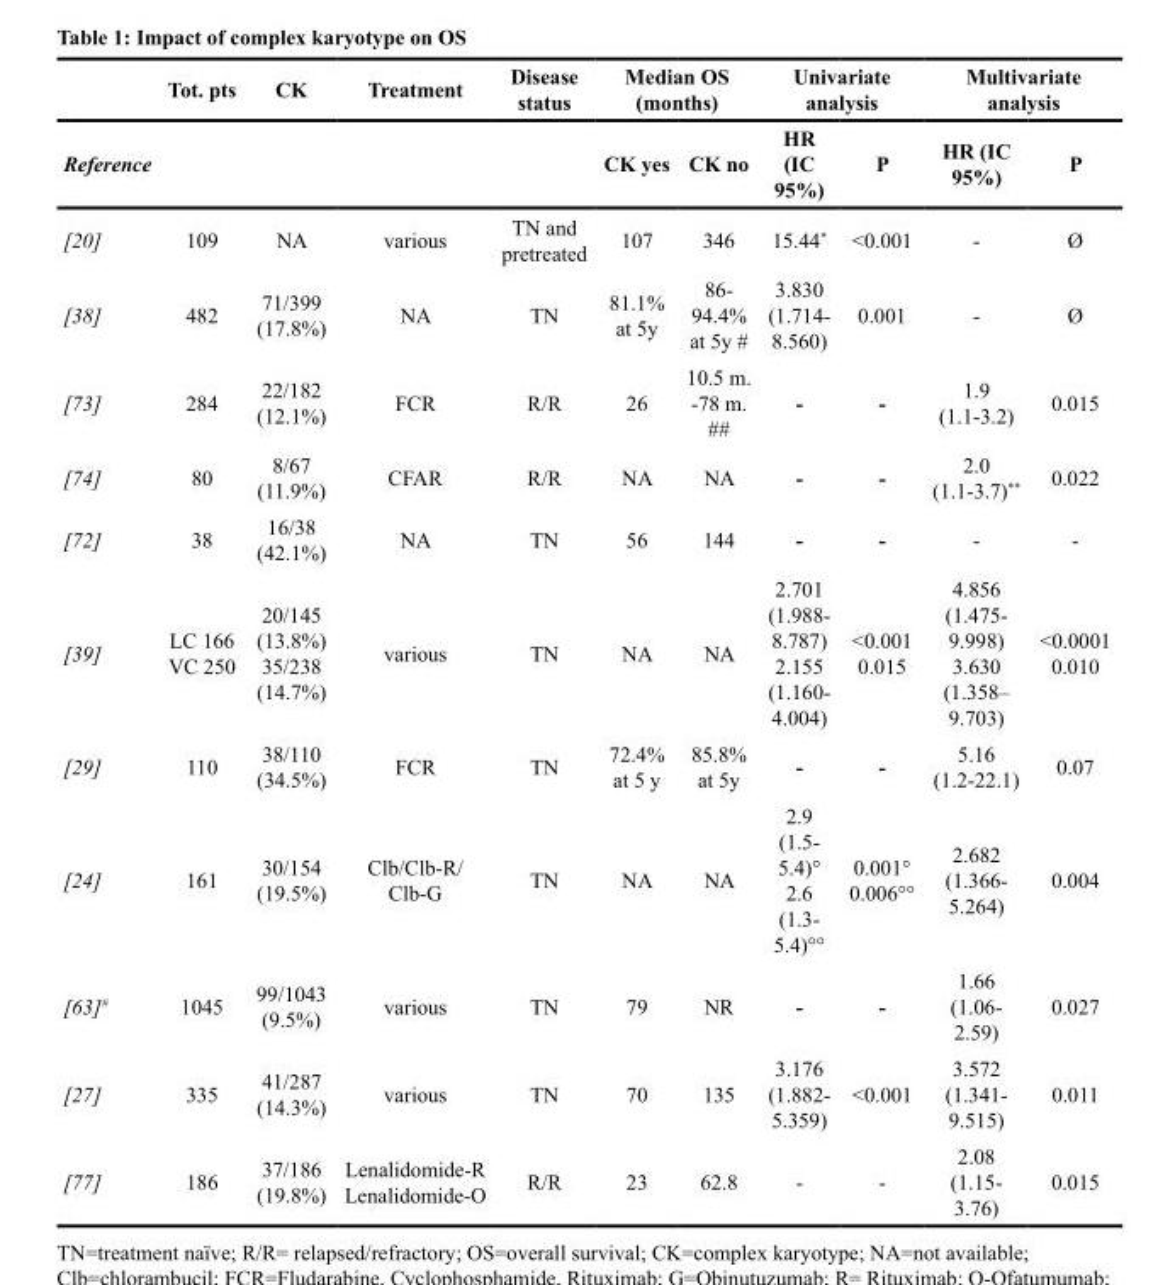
<table><thead><tr><td rowspan="2">Reference</td><td rowspan="2">Tot. pts</td><td rowspan="2">CK</td><td rowspan="2">Treatment</td><td rowspan="2">Disease status</td><td colspan="2">Median OS (months)</td><td colspan="2">Univariate analysis</td><td colspan="2">Multivariate analysis</td></tr><tr><td>CK yes</td><td>CK no</td><td>HR (IC 95%)</td><td>P</td><td>HR (IC 95%)</td><td>P</td></tr></thead><tbody><tr><td>[20]</td><td>109</td><td>NA</td><td>various</td><td>TN and pretreated</td><td>107</td><td>346</td><td>15.44*</td><td>&lt;0.001</td><td>-</td><td>Ø</td></tr><tr><td>[38]</td><td>482</td><td>71/399 (17.8%)</td><td>NA</td><td>TN</td><td>81.1% at 5y</td><td>86- 94.4% at 5y #</td><td>3.830 (1.714- 8.560)</td><td>0.001</td><td>-</td><td>Ø</td></tr><tr><td>[73]</td><td>284</td><td>22/182 (12.1%)</td><td>FCR</td><td>R/R</td><td>26</td><td>10.5 m. -78 m. ##</td><td>-</td><td>-</td><td>1.9 (1.1-3.2)</td><td>0.015</td></tr><tr><td>[74]</td><td>80</td><td>8/67 (11.9%)</td><td>CFAR</td><td>R/R</td><td>NA</td><td>NA</td><td>-</td><td>-</td><td>2.0 (1.1-3.7)**</td><td>0.022</td></tr><tr><td>[72]</td><td>38</td><td>16/38 (42.1%)</td><td>NA</td><td>TN</td><td>56</td><td>144</td><td>-</td><td>-</td><td>-</td><td>-</td></tr><tr><td>[39]</td><td>LC 166 VC 250</td><td>20/145 (13.8%) 35/238 (14.7%)</td><td>various</td><td>TN</td><td>NA</td><td>NA</td><td>2.701 (1.988- 8.787) 2.155 (1.160- 4.004)</td><td>&lt;0.001 0.015</td><td>4.856 (1.475- 9.998) 3.630 (1.358– 9.703)</td><td>&lt;0.0001 0.010</td></tr><tr><td>[29]</td><td>110</td><td>38/110 (34.5%)</td><td>FCR</td><td>TN</td><td>72.4% at 5 y</td><td>85.8% at 5y</td><td>-</td><td>-</td><td>5.16 (1.2-22.1)</td><td>0.07</td></tr><tr><td>[24]</td><td>161</td><td>30/154 (19.5%)</td><td>Clb/Clb-R/ Clb-G</td><td>TN</td><td>NA</td><td>NA</td><td>2.9 (1.5- 5.4)° 2.6 (1.3- 5.4)°°</td><td>0.001° 0.006°°</td><td>2.682 (1.366- 5.264)</td><td>0.004</td></tr><tr><td>[63]<sup>#</sup></td><td>1045</td><td>99/1043 (9.5%)</td><td>various</td><td>TN</td><td>79</td><td>NR</td><td>-</td><td>-</td><td>1.66 (1.06- 2.59)</td><td>0.027</td></tr><tr><td>[27]</td><td>335</td><td>41/287 (14.3%)</td><td>various</td><td>TN</td><td>70</td><td>135</td><td>3.176 (1.882- 5.359)</td><td>&lt;0.001</td><td>3.572 (1.341- 9.515)</td><td>0.011</td></tr><tr><td>[77]</td><td>186</td><td>37/186 (19.8%)</td><td>Lenalidomide-R Lenalidomide-O</td><td>R/R</td><td>23</td><td>62.8</td><td>-</td><td>-</td><td>2.08 (1.15- 3.76)</td><td>0.015</td></tr></tbody></table>